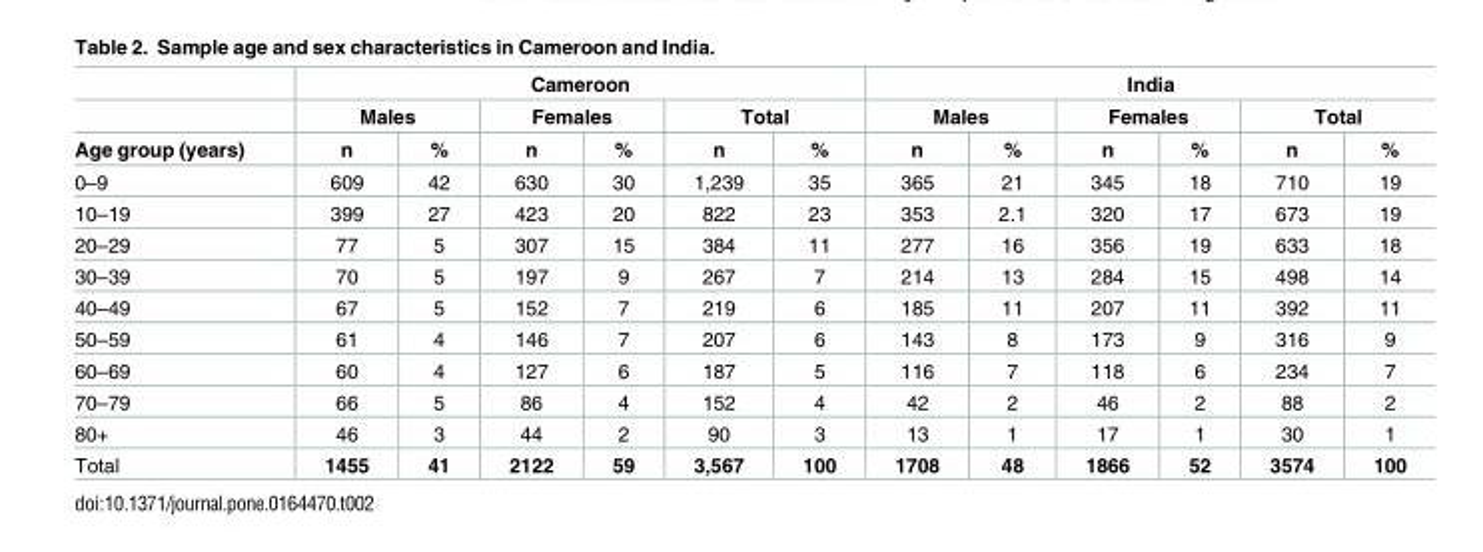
<table><thead><tr><td rowspan="3">Age group (years)</td><td colspan="6">Cameroon</td><td colspan="6">India</td></tr><tr><td colspan="2">Males</td><td colspan="2">Females</td><td colspan="2">Total</td><td colspan="2">Males</td><td colspan="2">Females</td><td colspan="2">Total</td></tr><tr><td>n</td><td>%</td><td>n</td><td>%</td><td>n</td><td>%</td><td>n</td><td>%</td><td>n</td><td>%</td><td>n</td><td>%</td></tr></thead><tbody><tr><td>0–9</td><td>609</td><td>42</td><td>630</td><td>30</td><td>1,239</td><td>35</td><td>365</td><td>21</td><td>345</td><td>18</td><td>710</td><td>19</td></tr><tr><td>10–19</td><td>399</td><td>27</td><td>423</td><td>20</td><td>822</td><td>23</td><td>353</td><td>2.1</td><td>320</td><td>17</td><td>673</td><td>19</td></tr><tr><td>20–29</td><td>77</td><td>5</td><td>307</td><td>15</td><td>384</td><td>11</td><td>277</td><td>16</td><td>356</td><td>19</td><td>633</td><td>18</td></tr><tr><td>30–39</td><td>70</td><td>5</td><td>197</td><td>9</td><td>267</td><td>7</td><td>214</td><td>13</td><td>284</td><td>15</td><td>498</td><td>14</td></tr><tr><td>40–49</td><td>67</td><td>5</td><td>152</td><td>7</td><td>219</td><td>6</td><td>185</td><td>11</td><td>207</td><td>11</td><td>392</td><td>11</td></tr><tr><td>50–59</td><td>61</td><td>4</td><td>146</td><td>7</td><td>207</td><td>6</td><td>143</td><td>8</td><td>173</td><td>9</td><td>316</td><td>9</td></tr><tr><td>60–69</td><td>60</td><td>4</td><td>127</td><td>6</td><td>187</td><td>5</td><td>116</td><td>7</td><td>118</td><td>6</td><td>234</td><td>7</td></tr><tr><td>70–79</td><td>66</td><td>5</td><td>86</td><td>4</td><td>152</td><td>4</td><td>42</td><td>2</td><td>46</td><td>2</td><td>88</td><td>2</td></tr><tr><td>80+</td><td>46</td><td>3</td><td>44</td><td>2</td><td>90</td><td>3</td><td>13</td><td>1</td><td>17</td><td>1</td><td>30</td><td>1</td></tr><tr><td>Total</td><td>1455</td><td>41</td><td>2122</td><td>59</td><td>3,567</td><td>100</td><td>1708</td><td>48</td><td>1866</td><td>52</td><td>3574</td><td>100</td></tr></tbody></table>